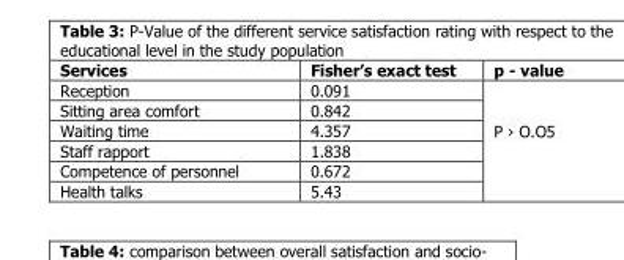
<table><thead><tr><td>Services</td><td>Fisher’s exact test</td><td>p - value</td></tr></thead><tbody><tr><td>Reception</td><td>0.091</td><td rowspan="6">P › O.O5</td></tr><tr><td>Sitting area comfort</td><td>0.842</td></tr><tr><td>Waiting time</td><td>4.357</td></tr><tr><td>Staff rapport</td><td>1.838</td></tr><tr><td>Competence of personnel</td><td>0.672</td></tr><tr><td>Health talks</td><td>5.43</td></tr></tbody></table>